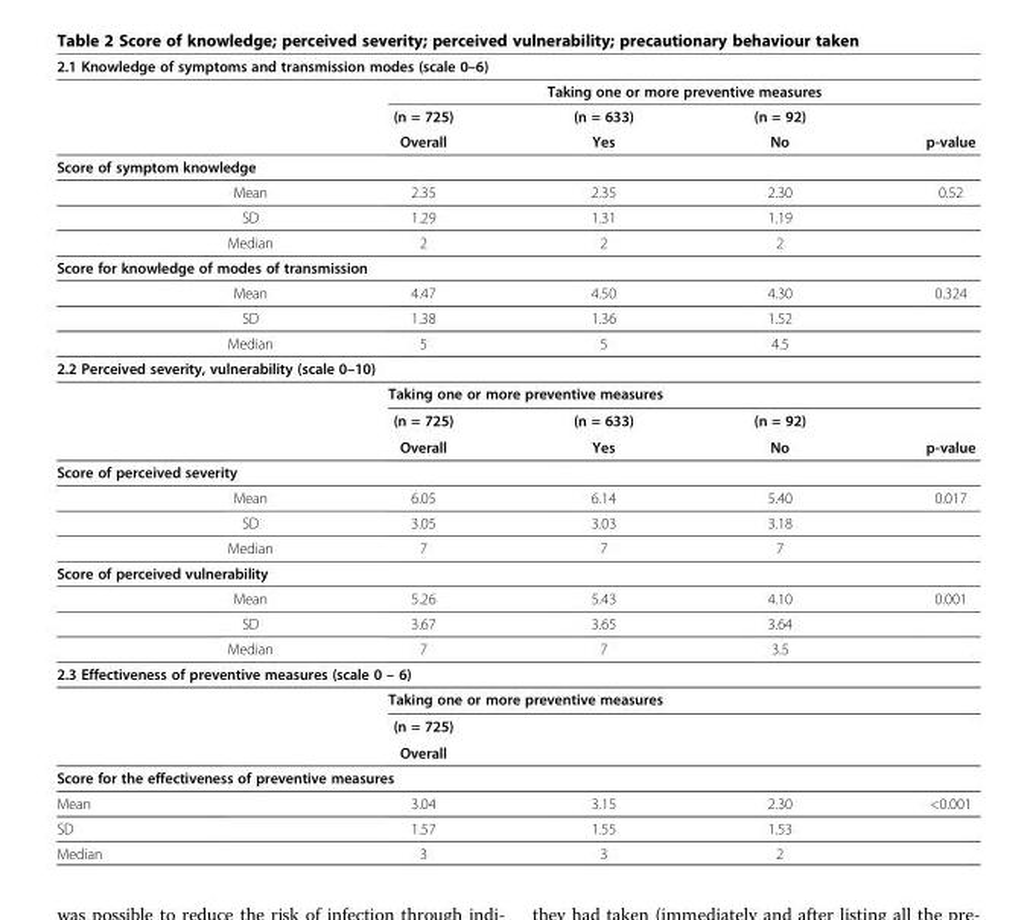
<table><thead><tr><td colspan="6">2.1 Knowledge of symptoms and transmission modes (scale 0–6)</td></tr><tr><td rowspan="3"></td><td rowspan="3"></td><td colspan="4">Taking one or more preventive measures</td></tr><tr><td rowspan="2">(n = 725) Overall</td><td rowspan="2">(n = 633) Yes</td><td rowspan="2">(n = 92) No</td><td rowspan="2">p-value</td></tr><tr></tr></thead><tbody><tr><td colspan="6">Score of symptom knowledge</td></tr><tr><td></td><td>Mean</td><td>2.35</td><td>2.35</td><td>2.30</td><td>0.52</td></tr><tr><td></td><td>SD</td><td>1.29</td><td>1.31</td><td>1.19</td><td></td></tr><tr><td></td><td>Median</td><td>2</td><td>2</td><td>2</td><td></td></tr><tr><td colspan="6">Score for knowledge of modes of transmission</td></tr><tr><td></td><td>Mean</td><td>4.47</td><td>4.50</td><td>4.30</td><td>0.324</td></tr><tr><td></td><td>SD</td><td>1.38</td><td>1.36</td><td>1.52</td><td></td></tr><tr><td></td><td>Median</td><td>5</td><td>5</td><td>4.5</td><td></td></tr><tr><td colspan="6">2.2 Perceived severity, vulnerability (scale 0–10)</td></tr><tr><td></td><td></td><td colspan="4">Taking one or more preventive measures</td></tr><tr><td></td><td></td><td>(n = 725)</td><td>(n = 633)</td><td>(n = 92)</td><td></td></tr><tr><td></td><td></td><td>Overall</td><td>Yes</td><td>No</td><td>p-value</td></tr><tr><td colspan="6">Score of perceived severity</td></tr><tr><td></td><td>Mean</td><td>6.05</td><td>6.14</td><td>5.40</td><td>0.017</td></tr><tr><td></td><td>SD</td><td>3.05</td><td>3.03</td><td>3.18</td><td></td></tr><tr><td></td><td>Median</td><td>7</td><td>7</td><td>7</td><td></td></tr><tr><td colspan="6">Score of perceived vulnerability</td></tr><tr><td></td><td>Mean</td><td>5.26</td><td>5.43</td><td>4.10</td><td>0.001</td></tr><tr><td></td><td>SD</td><td>3.67</td><td>3.65</td><td>3.64</td><td></td></tr><tr><td></td><td>Median</td><td>7</td><td>7</td><td>3.5</td><td></td></tr><tr><td colspan="6">2.3 Effectiveness of preventive measures (scale 0 – 6)</td></tr><tr><td></td><td></td><td colspan="4">Taking one or more preventive measures</td></tr><tr><td></td><td></td><td>(n = 725)</td><td></td><td></td><td></td></tr><tr><td></td><td></td><td>Overall</td><td></td><td></td><td></td></tr><tr><td colspan="6">Score for the effectiveness of preventive measures</td></tr><tr><td>Mean</td><td></td><td>3.04</td><td>3.15</td><td>2.30</td><td>&lt;0.001</td></tr><tr><td>SD</td><td></td><td>1.57</td><td>1.55</td><td>1.53</td><td></td></tr><tr><td>Median</td><td></td><td>3</td><td>3</td><td>2</td><td></td></tr></tbody></table>